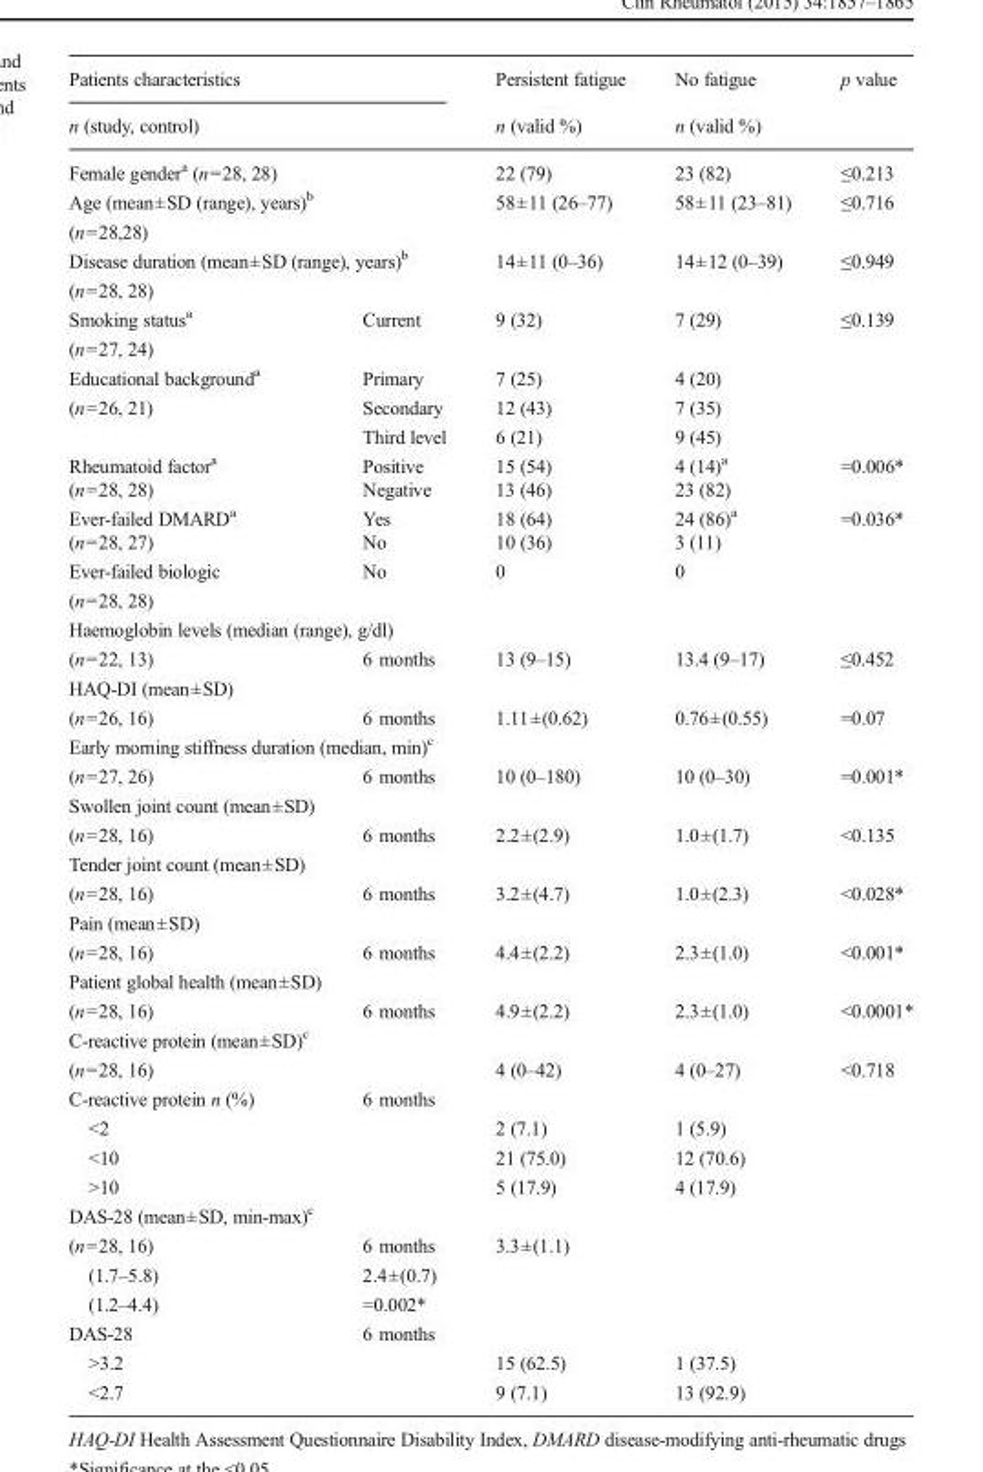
<table><thead><tr><td rowspan="2" colspan="2">Patients characteristics n (study, control)</td><td rowspan="2">Persistent fatigue n (valid %)</td><td rowspan="2">No fatigue n (valid %)</td><td rowspan="2">p value</td></tr><tr></tr></thead><tbody><tr><td colspan="2">Female gender<sup>a</sup> (n=28, 28)</td><td>22 (79)</td><td>23 (82)</td><td>≤0.213</td></tr><tr><td colspan="2">Age (mean±SD (range), years)<sup>b</sup></td><td>58±11 (26–77)</td><td>58±11 (23–81)</td><td>≤0.716</td></tr><tr><td colspan="5">(n=28,28)</td></tr><tr><td colspan="2">Disease duration (mean±SD (range), years)<sup>b</sup></td><td>14±11 (0–36)</td><td>14±12 (0–39)</td><td>≤0.949</td></tr><tr><td colspan="5">(n=28, 28)</td></tr><tr><td>Smoking status<sup>a</sup></td><td>Current</td><td>9 (32)</td><td>7 (29)</td><td>≤0.139</td></tr><tr><td colspan="5">(n=27, 24)</td></tr><tr><td>Educational background<sup>a</sup></td><td>Primary</td><td>7 (25)</td><td>4 (20)</td><td></td></tr><tr><td rowspan="2">(n=26, 21)</td><td>Secondary</td><td>12 (43)</td><td>7 (35)</td><td></td></tr><tr><td>Third level</td><td>6 (21)</td><td>9 (45)</td><td></td></tr><tr><td>Rheumatoid factor<sup>a</sup></td><td>Positive</td><td>15 (54)</td><td>4 (14)<sup>a</sup></td><td rowspan="2">=0.006*</td></tr><tr><td>(n=28, 28)</td><td>Negative</td><td>13 (46)</td><td>23 (82)</td></tr><tr><td>Ever-failed DMARD<sup>a</sup></td><td>Yes</td><td>18 (64)</td><td>24 (86)<sup>a</sup></td><td rowspan="3">=0.036*</td></tr><tr><td>(n=28, 27)</td><td>No</td><td>10 (36)</td><td>3 (11)</td></tr><tr><td>Ever-failed biologic</td><td>No</td><td>0</td><td>0</td></tr><tr><td colspan="5">(n=28, 28)</td></tr><tr><td colspan="5">Haemoglobin levels (median (range), g/dl)</td></tr><tr><td>(n=22, 13)</td><td>6 months</td><td>13 (9–15)</td><td>13.4 (9–17)</td><td>≤0.452</td></tr><tr><td colspan="5">HAQ-DI (mean±SD)</td></tr><tr><td>(n=26, 16)</td><td>6 months</td><td>1.11±(0.62)</td><td>0.76±(0.55)</td><td>=0.07</td></tr><tr><td colspan="5">Early morning stiffness duration (median, min)<sup>c</sup></td></tr><tr><td>(n=27, 26)</td><td>6 months</td><td>10 (0–180)</td><td>10 (0–30)</td><td>=0.001*</td></tr><tr><td colspan="5">Swollen joint count (mean±SD)</td></tr><tr><td>(n=28, 16)</td><td>6 months</td><td>2.2±(2.9)</td><td>1.0±(1.7)</td><td>&lt;0.135</td></tr><tr><td colspan="5">Tender joint count (mean±SD)</td></tr><tr><td>(n=28, 16)</td><td>6 months</td><td>3.2±(4.7)</td><td>1.0±(2.3)</td><td>&lt;0.028*</td></tr><tr><td colspan="5">Pain (mean±SD)</td></tr><tr><td>(n=28, 16)</td><td>6 months</td><td>4.4±(2.2)</td><td>2.3±(1.0)</td><td>&lt;0.001*</td></tr><tr><td colspan="5">Patient global health (mean±SD)</td></tr><tr><td>(n=28, 16)</td><td>6 months</td><td>4.9±(2.2)</td><td>2.3±(1.0)</td><td>&lt;0.0001*</td></tr><tr><td colspan="5">C-reactive protein (mean±SD)<sup>c</sup></td></tr><tr><td>(n=28, 16)</td><td></td><td>4 (0–42)</td><td>4 (0–27)</td><td>&lt;0.718</td></tr><tr><td>C-reactive protein n (%)</td><td>6 months</td><td></td><td></td><td></td></tr><tr><td>&lt;2</td><td></td><td>2 (7.1)</td><td>1 (5.9)</td><td></td></tr><tr><td>&lt;10</td><td></td><td>21 (75.0)</td><td>12 (70.6)</td><td></td></tr><tr><td>&gt;10</td><td></td><td>5 (17.9)</td><td>4 (17.9)</td><td></td></tr><tr><td colspan="5">DAS-28 (mean±SD, min-max)<sup>c</sup></td></tr><tr><td>(n=28, 16)</td><td>6 months</td><td>3.3±(1.1)</td><td></td><td></td></tr><tr><td>(1.7–5.8)</td><td>2.4±(0.7)</td><td></td><td></td><td></td></tr><tr><td>(1.2–4.4)</td><td>=0.002*</td><td></td><td></td><td></td></tr><tr><td>DAS-28</td><td>6 months</td><td></td><td></td><td></td></tr><tr><td>&gt;3.2</td><td></td><td>15 (62.5)</td><td>1 (37.5)</td><td></td></tr><tr><td>&lt;2.7</td><td></td><td>9 (7.1)</td><td>13 (92.9)</td><td></td></tr></tbody></table>